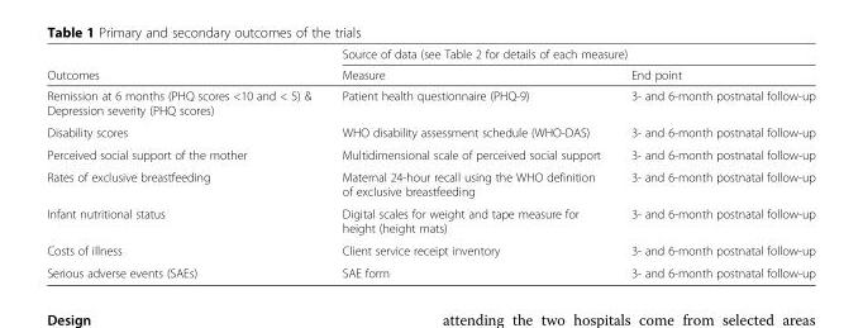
<table><thead><tr><td rowspan="2">Outcomes</td><td colspan="2">Source of data (see Table 2 for details of each measure)</td></tr><tr><td>Measure</td><td>End point</td></tr></thead><tbody><tr><td>Remission at 6 months (PHQ scores &lt;10 and &lt; 5) &amp; Depression severity (PHQ scores)</td><td>Patient health questionnaire (PHQ-9)</td><td>3- and 6-month postnatal follow-up</td></tr><tr><td>Disability scores</td><td>WHO disability assessment schedule (WHO-DAS)</td><td>3- and 6-month postnatal follow-up</td></tr><tr><td>Perceived social support of the mother</td><td>Multidimensional scale of perceived social support</td><td>3- and 6-month postnatal follow-up</td></tr><tr><td>Rates of exclusive breastfeeding</td><td>Maternal 24-hour recall using the WHO definition of exclusive breastfeeding</td><td>3- and 6-month postnatal follow-up</td></tr><tr><td>Infant nutritional status</td><td>Digital scales for weight and tape measure for height (height mats)</td><td>3- and 6-month postnatal follow-up</td></tr><tr><td>Costs of illness</td><td>Client service receipt inventory</td><td>3- and 6-month postnatal follow-up</td></tr><tr><td>Serious adverse events (SAEs)</td><td>SAE form</td><td>3- and 6-month postnatal follow-up</td></tr></tbody></table>